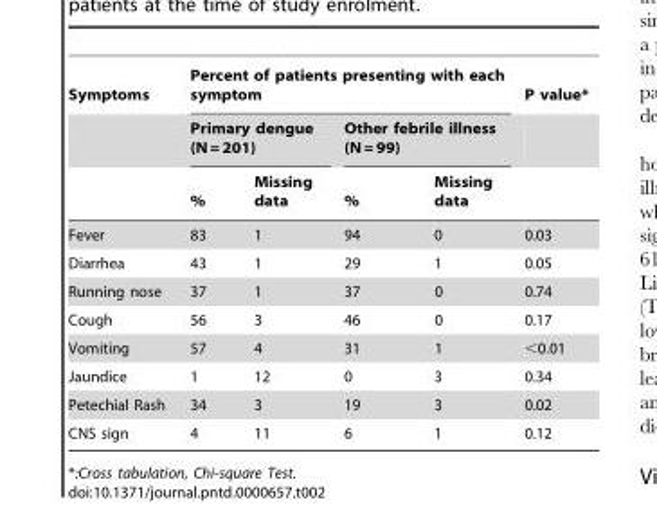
<table><thead><tr><td rowspan="3">Symptoms</td><td colspan="4">Percent of patients presenting with each symptom</td><td rowspan="3">P value*</td></tr><tr><td colspan="2">Primary dengue (N = 201)</td><td colspan="2">Other febrile illness (N = 99)</td></tr><tr><td>%</td><td>Missing data</td><td>%</td><td>Missing data</td></tr></thead><tbody><tr><td>Fever</td><td>83</td><td>1</td><td>94</td><td>0</td><td>0.03</td></tr><tr><td>Diarrhea</td><td>43</td><td>1</td><td>29</td><td>1</td><td>0.05</td></tr><tr><td>Running nose</td><td>37</td><td>1</td><td>37</td><td>0</td><td>0.74</td></tr><tr><td>Cough</td><td>56</td><td>3</td><td>46</td><td>0</td><td>0.17</td></tr><tr><td>Vomiting</td><td>57</td><td>4</td><td>31</td><td>1</td><td>&lt;0.01</td></tr><tr><td>Jaundice</td><td>1</td><td>12</td><td>0</td><td>3</td><td>0.34</td></tr><tr><td>Petechial Rash</td><td>34</td><td>3</td><td>19</td><td>3</td><td>0.02</td></tr><tr><td>CNS sign</td><td>4</td><td>11</td><td>6</td><td>1</td><td>0.12</td></tr></tbody></table>